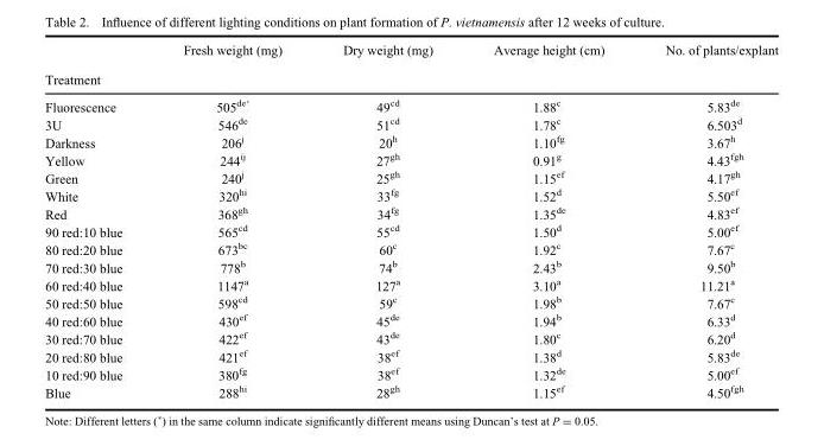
<table><thead><tr><td>Treatment</td><td>Fresh weight (mg)</td><td>Dry weight (mg)</td><td>Average height (cm)</td><td>No. of plants/explant</td></tr></thead><tbody><tr><td>Fluorescence</td><td>505<sup>de*</sup></td><td>49<sup>cd</sup></td><td>1.88<sup>c</sup></td><td>5.83<sup>de</sup></td></tr><tr><td>3U</td><td>546<sup>de</sup></td><td>51<sup>cd</sup></td><td>1.78<sup>c</sup></td><td>6.503<sup>d</sup></td></tr><tr><td>Darkness</td><td>206<sup>j</sup></td><td>20<sup>h</sup></td><td>1.10<sup>fg</sup></td><td>3.67<sup>h</sup></td></tr><tr><td>Yellow</td><td>244<sup>ij</sup></td><td>27<sup>gh</sup></td><td>0.91<sup>g</sup></td><td>4.43<sup>fgh</sup></td></tr><tr><td>Green</td><td>240<sup>j</sup></td><td>25<sup>gh</sup></td><td>1.15<sup>ef</sup></td><td>4.17<sup>gh</sup></td></tr><tr><td>White</td><td>320<sup>hi</sup></td><td>33<sup>fg</sup></td><td>1.52<sup>d</sup></td><td>5.50<sup>ef</sup></td></tr><tr><td>Red</td><td>368<sup>gh</sup></td><td>34<sup>fg</sup></td><td>1.35<sup>de</sup></td><td>4.83<sup>ef</sup></td></tr><tr><td>90 red:10 blue</td><td>565<sup>cd</sup></td><td>55<sup>cd</sup></td><td>1.50<sup>d</sup></td><td>5.00<sup>ef</sup></td></tr><tr><td>80 red:20 blue</td><td>673<sup>bc</sup></td><td>60<sup>c</sup></td><td>1.92<sup>c</sup></td><td>7.67<sup>c</sup></td></tr><tr><td>70 red:30 blue</td><td>778<sup>b</sup></td><td>74<sup>b</sup></td><td>2.43<sup>b</sup></td><td>9.50<sup>b</sup></td></tr><tr><td>60 red:40 blue</td><td>1147<sup>a</sup></td><td>127<sup>a</sup></td><td>3.10<sup>a</sup></td><td>11.21<sup>a</sup></td></tr><tr><td>50 red:50 blue</td><td>598<sup>cd</sup></td><td>59<sup>c</sup></td><td>1.98<sup>b</sup></td><td>7.67<sup>c</sup></td></tr><tr><td>40 red:60 blue</td><td>430<sup>ef</sup></td><td>45<sup>de</sup></td><td>1.94<sup>b</sup></td><td>6.33<sup>d</sup></td></tr><tr><td>30 red:70 blue</td><td>422<sup>ef</sup></td><td>43<sup>de</sup></td><td>1.80<sup>c</sup></td><td>6.20<sup>d</sup></td></tr><tr><td>20 red:80 blue</td><td>421<sup>ef</sup></td><td>38<sup>ef</sup></td><td>1.38<sup>d</sup></td><td>5.83<sup>de</sup></td></tr><tr><td>10 red:90 blue</td><td>380<sup>fg</sup></td><td>38<sup>ef</sup></td><td>1.32<sup>de</sup></td><td>5.00<sup>ef</sup></td></tr><tr><td>Blue</td><td>288<sup>hi</sup></td><td>28<sup>gh</sup></td><td>1.15<sup>ef</sup></td><td>4.50<sup>fgh</sup></td></tr></tbody></table>